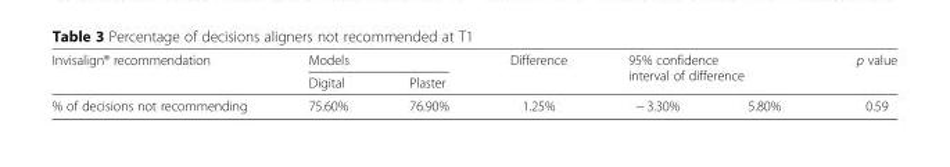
<table><thead><tr><td rowspan="3">Invisalign® recommendation % of decisions not recommending</td><td colspan="2">Models</td><td rowspan="3">Difference 1.25%</td><td rowspan="2" colspan="2">95% confidence interval of difference</td><td rowspan="3">p value 0.59</td></tr><tr><td rowspan="2">Digital 75.60%</td><td rowspan="2">Plaster 76.90%</td></tr><tr><td>− 3.30%</td><td>5.80%</td></tr></thead><tbody></tbody></table>